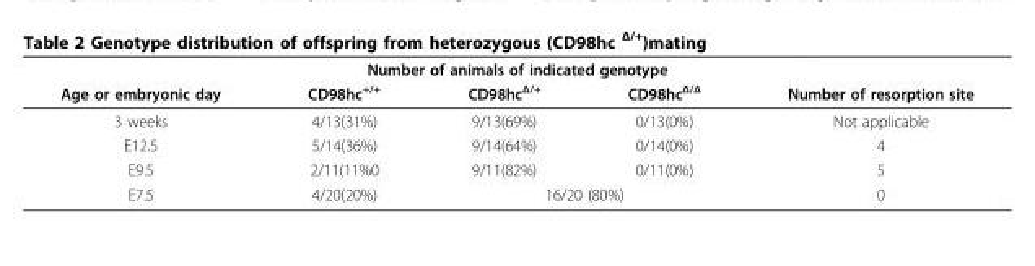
<table><thead><tr><td colspan="5">Number of animals of indicated genotype</td></tr><tr><td>Age or embryonic day</td><td>CD98hc<sup>+/+</sup></td><td>CD98hc<sup>Δ/+</sup></td><td>CD98hc<sup>Δ/Δ</sup></td><td>Number of resorption site</td></tr></thead><tbody><tr><td>3 weeks</td><td>4/13(31%)</td><td>9/13(69%)</td><td>0/13(0%)</td><td>Not applicable</td></tr><tr><td>E12.5</td><td>5/14(36%)</td><td>9/14(64%)</td><td>0/14(0%)</td><td>4</td></tr><tr><td>E9.5</td><td>2/11(11%0</td><td>9/11(82%)</td><td>0/11(0%)</td><td>5</td></tr><tr><td>E7.5</td><td>4/20(20%)</td><td colspan="2">16/20 (80%)</td><td>0</td></tr></tbody></table>